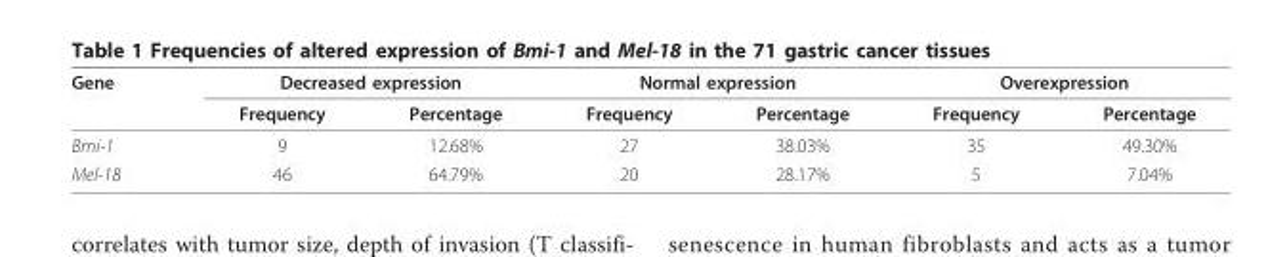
<table><thead><tr><td rowspan="2">Gene</td><td colspan="2">Decreased expression</td><td colspan="2">Normal expression</td><td colspan="2">Overexpression</td></tr><tr><td>Frequency</td><td>Percentage</td><td>Frequency</td><td>Percentage</td><td>Frequency</td><td>Percentage</td></tr></thead><tbody><tr><td>Bmi-1</td><td>9</td><td>12.68%</td><td>27</td><td>38.03%</td><td>35</td><td>49.30%</td></tr><tr><td>Mel-18</td><td>46</td><td>64.79%</td><td>20</td><td>28.17%</td><td>5</td><td>7.04%</td></tr></tbody></table>